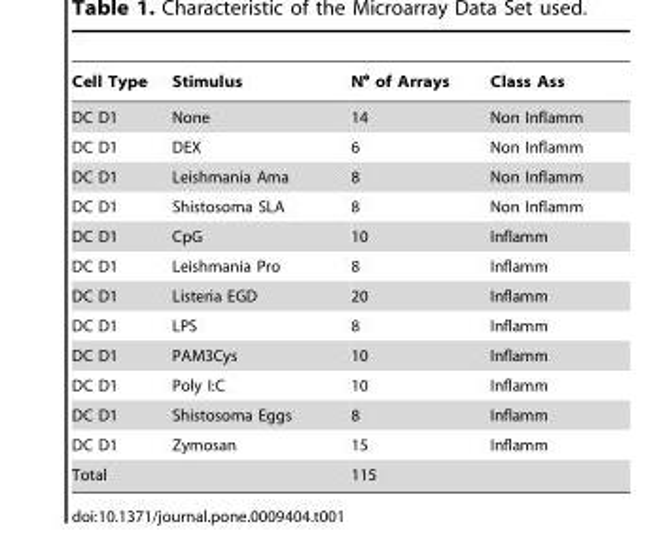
<table><thead><tr><td>Cell Type</td><td>Stimulus</td><td>N° of Arrays</td><td>Class Ass</td></tr></thead><tbody><tr><td>DC D1</td><td>None</td><td>14</td><td>Non Inflamm</td></tr><tr><td>DC D1</td><td>DEX</td><td>6</td><td>Non Inflamm</td></tr><tr><td>DC D1</td><td>Leishmania Ama</td><td>8</td><td>Non Inflamm</td></tr><tr><td>DC D1</td><td>Shistosoma SLA</td><td>8</td><td>Non Inflamm</td></tr><tr><td>DC D1</td><td>CpG</td><td>10</td><td>Inflamm</td></tr><tr><td>DC D1</td><td>Leishmania Pro</td><td>8</td><td>Inflamm</td></tr><tr><td>DC D1</td><td>Listeria EGD</td><td>20</td><td>Inflamm</td></tr><tr><td>DC D1</td><td>LPS</td><td>8</td><td>Inflamm</td></tr><tr><td>DC D1</td><td>PAM3Cys</td><td>10</td><td>Inflamm</td></tr><tr><td>DC D1</td><td>Poly I:C</td><td>10</td><td>Inflamm</td></tr><tr><td>DC D1</td><td>Shistosoma Eggs</td><td>8</td><td>Inflamm</td></tr><tr><td>DC D1</td><td>Zymosan</td><td>15</td><td>Inflamm</td></tr><tr><td>Total</td><td></td><td>115</td><td></td></tr></tbody></table>